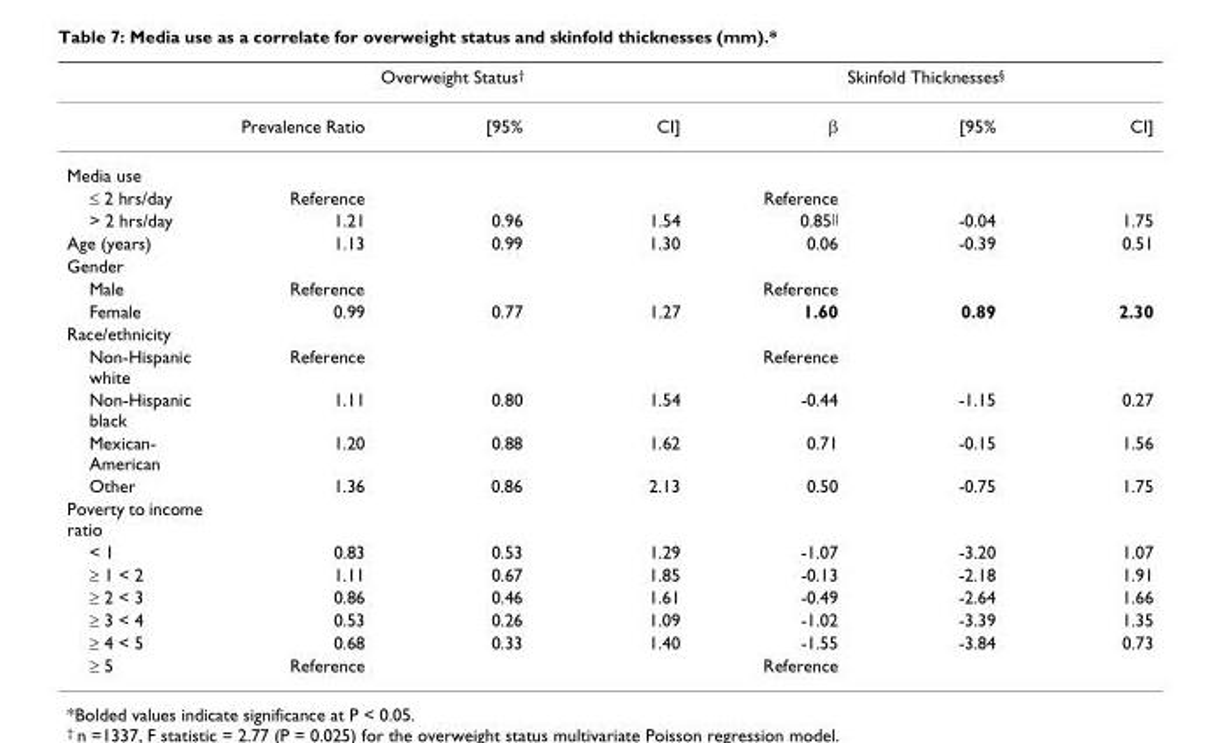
<table><thead><tr><td rowspan="2"></td><td colspan="3">Overweight Status<sup>†</sup></td><td colspan="3">Skinfold Thicknesses<sup>§</sup></td></tr><tr><td>Prevalence Ratio</td><td>[95%</td><td>CI]</td><td>β</td><td>[95%</td><td>CI]</td></tr></thead><tbody><tr><td colspan="7">Media use</td></tr><tr><td>≤ 2 hrs/day</td><td>Reference</td><td></td><td></td><td>Reference</td><td></td><td></td></tr><tr><td>&gt; 2 hrs/day</td><td>1.21</td><td>0.96</td><td>1.54</td><td>0.85<sup>||</sup></td><td>-0.04</td><td>1.75</td></tr><tr><td>Age (years)</td><td>1.13</td><td>0.99</td><td>1.30</td><td>0.06</td><td>-0.39</td><td>0.51</td></tr><tr><td colspan="7">Gender</td></tr><tr><td>Male</td><td>Reference</td><td></td><td></td><td>Reference</td><td></td><td></td></tr><tr><td>Female</td><td>0.99</td><td>0.77</td><td>1.27</td><td>1.60</td><td>0.89</td><td>2.30</td></tr><tr><td colspan="7">Race/ethnicity</td></tr><tr><td>Non-Hispanic white</td><td>Reference</td><td></td><td></td><td>Reference</td><td></td><td></td></tr><tr><td>Non-Hispanic black</td><td>1.11</td><td>0.80</td><td>1.54</td><td>-0.44</td><td>-1.15</td><td>0.27</td></tr><tr><td>Mexican- American</td><td>1.20</td><td>0.88</td><td>1.62</td><td>0.71</td><td>-0.15</td><td>1.56</td></tr><tr><td>Other</td><td>1.36</td><td>0.86</td><td>2.13</td><td>0.50</td><td>-0.75</td><td>1.75</td></tr><tr><td colspan="7">Poverty to income ratio</td></tr><tr><td>&lt; 1</td><td>0.83</td><td>0.53</td><td>1.29</td><td>-1.07</td><td>-3.20</td><td>1.07</td></tr><tr><td>≥ 1 &lt; 2</td><td>1.11</td><td>0.67</td><td>1.85</td><td>-0.13</td><td>-2.18</td><td>1.91</td></tr><tr><td>≥ 2 &lt; 3</td><td>0.86</td><td>0.46</td><td>1.61</td><td>-0.49</td><td>-2.64</td><td>1.66</td></tr><tr><td>≥ 3 &lt; 4</td><td>0.53</td><td>0.26</td><td>1.09</td><td>-1.02</td><td>-3.39</td><td>1.35</td></tr><tr><td>≥ 4 &lt; 5</td><td>0.68</td><td>0.33</td><td>1.40</td><td>-1.55</td><td>-3.84</td><td>0.73</td></tr><tr><td>≥ 5</td><td>Reference</td><td></td><td></td><td>Reference</td><td></td><td></td></tr></tbody></table>